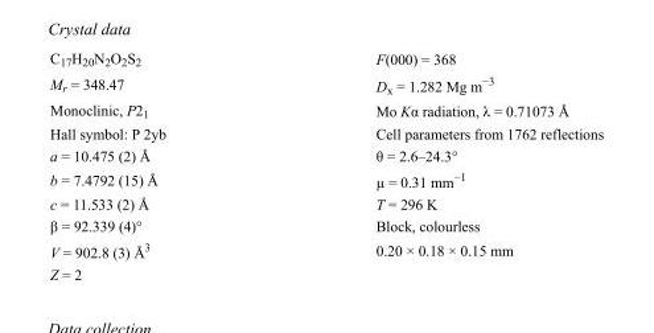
<table><tbody><tr><td>C<sub>17</sub>H<sub>20</sub>N<sub>2</sub>O<sub>2</sub>S<sub>2</sub></td><td>F(000) = 368</td></tr><tr><td>M<sub>r</sub> = 348.47</td><td>D<sub>x</sub> = 1.282 Mg m<sup>−3</sup></td></tr><tr><td>Monoclinic, P2<sub>1</sub></td><td>Mo Kα radiation, λ = 0.71073 Å</td></tr><tr><td>Hall symbol: P 2yb</td><td>Cell parameters from 1762 reflections</td></tr><tr><td>a = 10.475 (2) Å</td><td>θ = 2.6–24.3°</td></tr><tr><td>b = 7.4792 (15) Å</td><td>µ = 0.31 mm<sup>−1</sup></td></tr><tr><td>c = 11.533 (2) Å</td><td>T = 296 K</td></tr><tr><td>β = 92.339 (4)°</td><td>Block, colourless</td></tr><tr><td>V = 902.8 (3) Å<sup>3</sup></td><td>0.20 × 0.18 × 0.15 mm</td></tr><tr><td>Z = 2</td><td></td></tr></tbody></table>